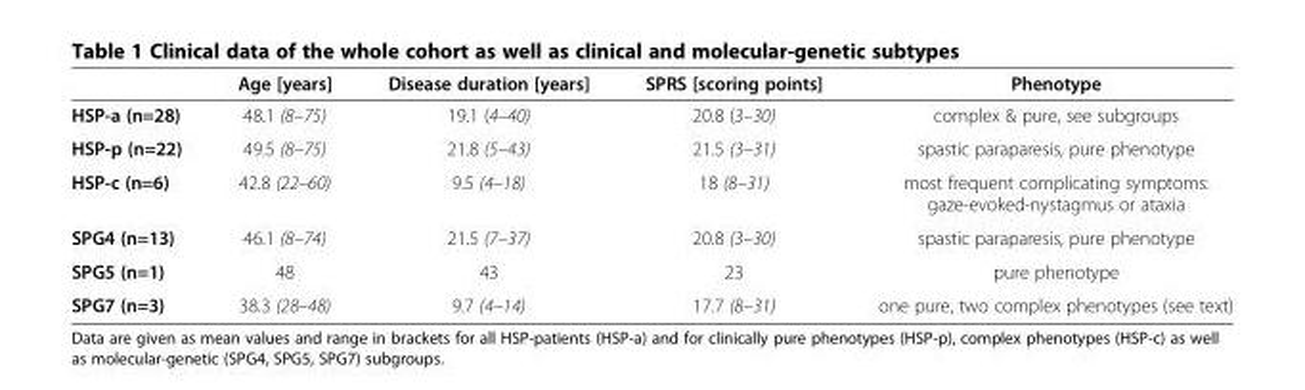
<table><thead><tr><td></td><td>Age [years]</td><td>Disease duration [years]</td><td>SPRS [scoring points]</td><td>Phenotype</td></tr></thead><tbody><tr><td>HSP-a (n=28)</td><td>48.1 (8–75)</td><td>19.1 (4–40)</td><td>20.8 (3–30)</td><td>complex &amp; pure, see subgroups</td></tr><tr><td>HSP-p (n=22)</td><td>49.5 (8–75)</td><td>21.8 (5–43)</td><td>21.5 (3–31)</td><td>spastic paraparesis, pure phenotype</td></tr><tr><td>HSP-c (n=6)</td><td>42.8 (22–60)</td><td>9.5 (4–18)</td><td>18 (8–31)</td><td>most frequent complicating symptoms: gaze-evoked-nystagmus or ataxia</td></tr><tr><td>SPG4 (n=13)</td><td>46.1 (8–74)</td><td>21.5 (7–37)</td><td>20.8 (3–30)</td><td>spastic paraparesis, pure phenotype</td></tr><tr><td>SPG5 (n=1)</td><td>48</td><td>43</td><td>23</td><td>pure phenotype</td></tr><tr><td>SPG7 (n=3)</td><td>38.3 (28–48)</td><td>9.7 (4–14)</td><td>17.7 (8–31)</td><td>one pure, two complex phenotypes (see text)</td></tr></tbody></table>